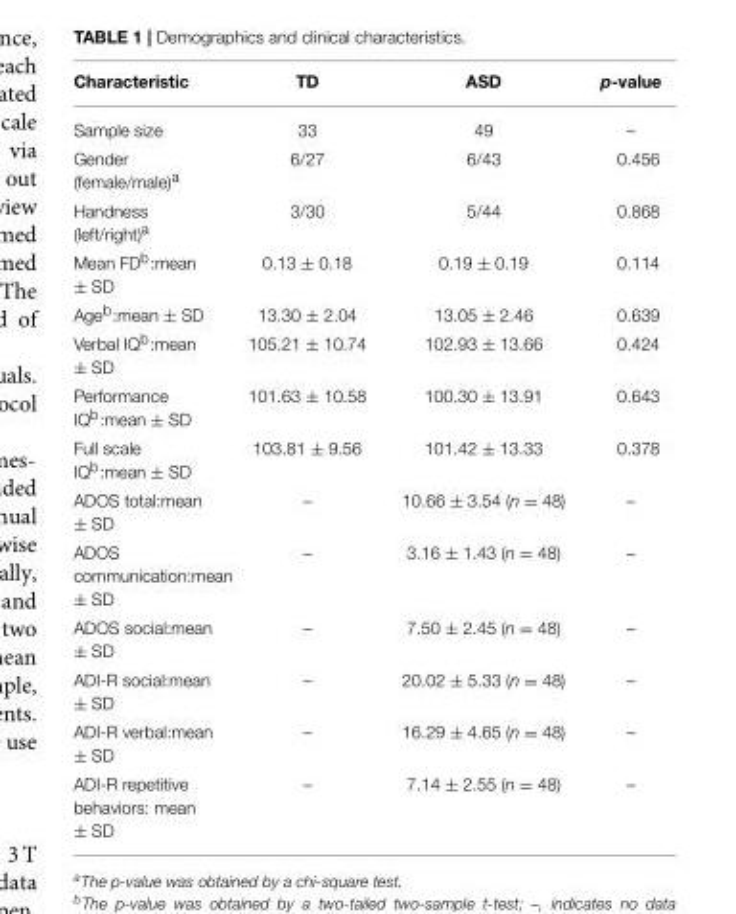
<table><thead><tr><td>Characteristic</td><td>TD</td><td>ASD</td><td>p-value</td></tr></thead><tbody><tr><td>Sample size</td><td>33</td><td>49</td><td>–</td></tr><tr><td>Gender (female/male)<sup>a</sup></td><td>6/27</td><td>6/43</td><td>0.456</td></tr><tr><td>Handness (left/right)<sup>a</sup></td><td>3/30</td><td>5/44</td><td>0.868</td></tr><tr><td>Mean FD<sup>b</sup>:mean ± SD</td><td>0.13 ± 0.18</td><td>0.19 ± 0.19</td><td>0.114</td></tr><tr><td>Age<sup>b</sup>:mean ± SD</td><td>13.30 ± 2.04</td><td>13.05 ± 2.46</td><td>0.639</td></tr><tr><td>Verbal IQ<sup>b</sup>:mean ± SD</td><td>105.21 ± 10.74</td><td>102.93 ± 13.66</td><td>0.424</td></tr><tr><td>Performance IQ<sup>b</sup>:mean ± SD</td><td>101.63 ± 10.58</td><td>100.30 ± 13.91</td><td>0.643</td></tr><tr><td>Full scale IQ<sup>b</sup>:mean ± SD</td><td>103.81 ± 9.56</td><td>101.42 ± 13.33</td><td>0.378</td></tr><tr><td>ADOS total:mean ± SD</td><td>–</td><td>10.66 ± 3.54 (n = 48)</td><td>–</td></tr><tr><td>ADOS communication:mean ± SD</td><td>–</td><td>3.16 ± 1.43 (n = 48)</td><td>–</td></tr><tr><td>ADOS social:mean ± SD</td><td>–</td><td>7.50 ± 2.45 (n = 48)</td><td>–</td></tr><tr><td>ADI-R social:mean ± SD</td><td>–</td><td>20.02 ± 5.33 (n = 48)</td><td>–</td></tr><tr><td>ADI-R verbal:mean ± SD</td><td>–</td><td>16.29 ± 4.65 (n = 48)</td><td>–</td></tr><tr><td>ADI-R repetitive behaviors: mean ± SD</td><td>–</td><td>7.14 ± 2.55 (n = 48)</td><td>–</td></tr></tbody></table>